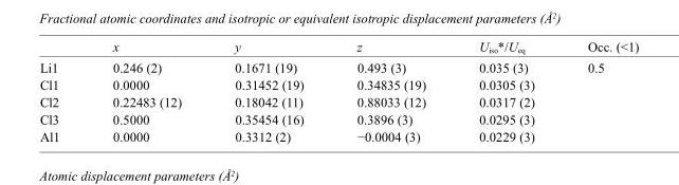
<table><thead><tr><td></td><td>x</td><td>y</td><td>z</td><td>U<sub>iso</sub>*/U<sub>eq</sub></td><td>Occ. (&lt;1)</td></tr></thead><tbody><tr><td>Li1</td><td>0.246 (2)</td><td>0.1671 (19)</td><td>0.493 (3)</td><td>0.035 (3)</td><td>0.5</td></tr><tr><td>Cl1</td><td>0.0000</td><td>0.31452 (19)</td><td>0.34835 (19)</td><td>0.0305 (3)</td><td></td></tr><tr><td>Cl2</td><td>0.22483 (12)</td><td>0.18042 (11)</td><td>0.88033 (12)</td><td>0.0317 (2)</td><td></td></tr><tr><td>Cl3</td><td>0.5000</td><td>0.35454 (16)</td><td>0.3896 (3)</td><td>0.0295 (3)</td><td></td></tr><tr><td>Al1</td><td>0.0000</td><td>0.3312 (2)</td><td>−0.0004 (3)</td><td>0.0229 (3)</td><td></td></tr></tbody></table>